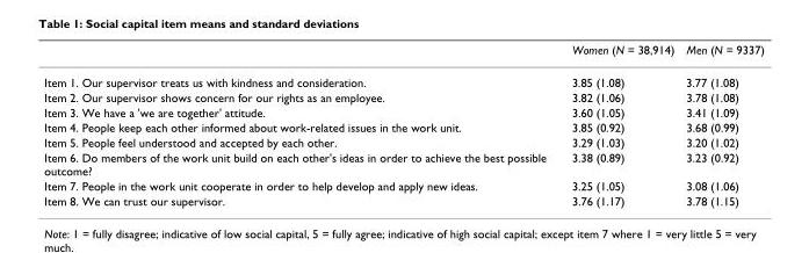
<table><thead><tr><td></td><td>Women (N = 38,914)</td><td>Men (N = 9337)</td></tr></thead><tbody><tr><td>Item 1. Our supervisor treats us with kindness and consideration.</td><td>3.85 (1.08)</td><td>3.77 (1.08)</td></tr><tr><td>Item 2. Our supervisor shows concern for our rights as an employee.</td><td>3.82 (1.06)</td><td>3.78 (1.08)</td></tr><tr><td>Item 3. We have a &#x27;we are together&#x27; attitude.</td><td>3.60 (1.05)</td><td>3.41 (1.09)</td></tr><tr><td>Item 4. People keep each other informed about work-related issues in the work unit.</td><td>3.85 (0.92)</td><td>3.68 (0.99)</td></tr><tr><td>Item 5. People feel understood and accepted by each other.</td><td>3.29 (1.03)</td><td>3.20 (1.02)</td></tr><tr><td>Item 6. Do members of the work unit build on each other&#x27;s ideas in order to achieve the best possible outcome?</td><td>3.38 (0.89)</td><td>3.23 (0.92)</td></tr><tr><td>Item 7. People in the work unit cooperate in order to help develop and apply new ideas.</td><td>3.25 (1.05)</td><td>3.08 (1.06)</td></tr><tr><td>Item 8. We can trust our supervisor.</td><td>3.76 (1.17)</td><td>3.78 (1.15)</td></tr></tbody></table>